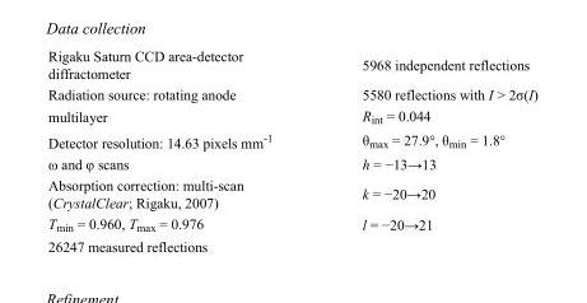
<table><tbody><tr><td>Rigaku Saturn CCD area-detector diffractometer</td><td>5968 independent reflections</td></tr><tr><td>Radiation source: rotating anode</td><td>5580 reflections with I &gt; 2σ(I)</td></tr><tr><td>multilayer</td><td>R<sub>int</sub> = 0.044</td></tr><tr><td>Detector resolution: 14.63 pixels mm<sup>-1</sup></td><td>θ<sub>max</sub> = 27.9°, θ<sub>min</sub> = 1.8°</td></tr><tr><td>ω and φ scans</td><td>h = −13→13</td></tr><tr><td>Absorption correction: multi-scan (CrystalClear; Rigaku, 2007)</td><td>k = −20→20</td></tr><tr><td>T<sub>min</sub> = 0.960, T<sub>max</sub> = 0.976</td><td>l = −20→21</td></tr><tr><td>26247 measured reflections</td><td></td></tr></tbody></table>